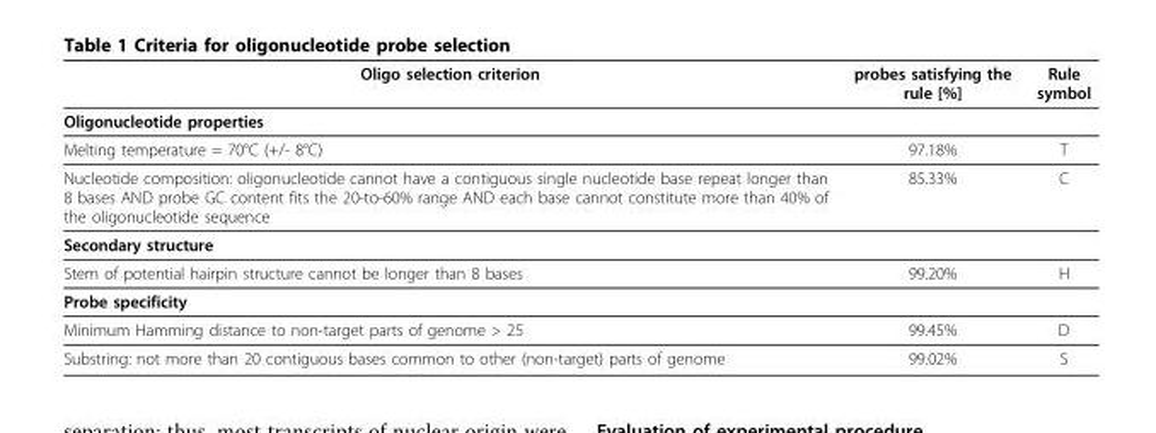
<table><thead><tr><td>Oligo selection criterion</td><td>probes satisfying the rule [%]</td><td>Rule symbol</td></tr></thead><tbody><tr><td colspan="3">Oligonucleotide properties</td></tr><tr><td>Melting temperature = 70°C (+/- 8°C)</td><td>97.18%</td><td>T</td></tr><tr><td>Nucleotide composition: oligonucleotide cannot have a contiguous single nucleotide base repeat longer than 8 bases AND probe GC content fits the 20-to-60% range AND each base cannot constitute more than 40% of the oligonucleotide sequence</td><td>85.33%</td><td>C</td></tr><tr><td colspan="3">Secondary structure</td></tr><tr><td>Stem of potential hairpin structure cannot be longer than 8 bases</td><td>99.20%</td><td>H</td></tr><tr><td colspan="3">Probe specificity</td></tr><tr><td>Minimum Hamming distance to non-target parts of genome &gt; 25</td><td>99.45%</td><td>D</td></tr><tr><td>Substring: not more than 20 contiguous bases common to other (non-target) parts of genome</td><td>99.02%</td><td>S</td></tr></tbody></table>